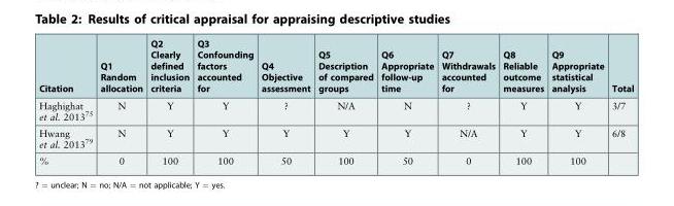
<table><thead><tr><td>Citation</td><td>Q1 Random allocation</td><td>Q2 Clearly defined inclusion criteria</td><td>Q3 Confounding factors accounted for</td><td>Q4 Objective assessment</td><td>Q5 Description of compared groups</td><td>Q6 Appropriate follow-up time</td><td>Q7 Withdrawals accounted for</td><td>Q8 Reliable outcome measures</td><td>Q9 Appropriate statistical analysis</td><td>Total</td></tr></thead><tbody><tr><td>Haghighat et al. 2013<sup>75</sup></td><td>N</td><td>Y</td><td>Y</td><td>?</td><td>N/A</td><td>N</td><td>?</td><td>Y</td><td>Y</td><td>3/7</td></tr><tr><td>Hwang et al. 2013<sup>79</sup></td><td>N</td><td>Y</td><td>Y</td><td>Y</td><td>Y</td><td>Y</td><td>N/A</td><td>Y</td><td>Y</td><td>6/8</td></tr><tr><td>%</td><td>0</td><td>100</td><td>100</td><td>50</td><td>100</td><td>50</td><td>0</td><td>100</td><td>100</td><td></td></tr></tbody></table>